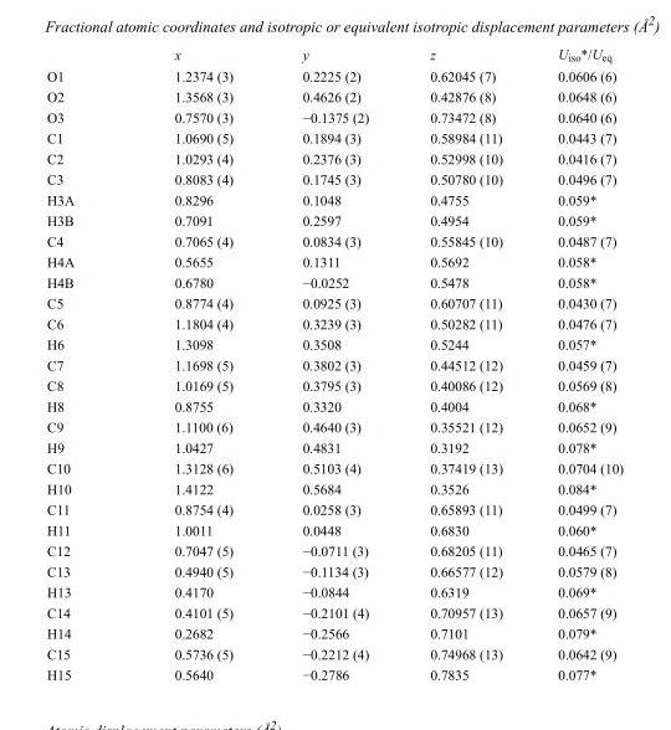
<table><thead><tr><td></td><td>x</td><td>y</td><td>z</td><td>U<sub>iso</sub>*/U<sub>eq</sub></td></tr></thead><tbody><tr><td>O1</td><td>1.2374 (3)</td><td>0.2225 (2)</td><td>0.62045 (7)</td><td>0.0606 (6)</td></tr><tr><td>O2</td><td>1.3568 (3)</td><td>0.4626 (2)</td><td>0.42876 (8)</td><td>0.0648 (6)</td></tr><tr><td>O3</td><td>0.7570 (3)</td><td>−0.1375 (2)</td><td>0.73472 (8)</td><td>0.0640 (6)</td></tr><tr><td>C1</td><td>1.0690 (5)</td><td>0.1894 (3)</td><td>0.58984 (11)</td><td>0.0443 (7)</td></tr><tr><td>C2</td><td>1.0293 (4)</td><td>0.2376 (3)</td><td>0.52998 (10)</td><td>0.0416 (7)</td></tr><tr><td>C3</td><td>0.8083 (4)</td><td>0.1745 (3)</td><td>0.50780 (10)</td><td>0.0496 (7)</td></tr><tr><td>H3A</td><td>0.8296</td><td>0.1048</td><td>0.4755</td><td>0.059*</td></tr><tr><td>H3B</td><td>0.7091</td><td>0.2597</td><td>0.4954</td><td>0.059*</td></tr><tr><td>C4</td><td>0.7065 (4)</td><td>0.0834 (3)</td><td>0.55845 (10)</td><td>0.0487 (7)</td></tr><tr><td>H4A</td><td>0.5655</td><td>0.1311</td><td>0.5692</td><td>0.058*</td></tr><tr><td>H4B</td><td>0.6780</td><td>−0.0252</td><td>0.5478</td><td>0.058*</td></tr><tr><td>C5</td><td>0.8774 (4)</td><td>0.0925 (3)</td><td>0.60707 (11)</td><td>0.0430 (7)</td></tr><tr><td>C6</td><td>1.1804 (4)</td><td>0.3239 (3)</td><td>0.50282 (11)</td><td>0.0476 (7)</td></tr><tr><td>H6</td><td>1.3098</td><td>0.3508</td><td>0.5244</td><td>0.057*</td></tr><tr><td>C7</td><td>1.1698 (5)</td><td>0.3802 (3)</td><td>0.44512 (12)</td><td>0.0459 (7)</td></tr><tr><td>C8</td><td>1.0169 (5)</td><td>0.3795 (3)</td><td>0.40086 (12)</td><td>0.0569 (8)</td></tr><tr><td>H8</td><td>0.8755</td><td>0.3320</td><td>0.4004</td><td>0.068*</td></tr><tr><td>C9</td><td>1.1100 (6)</td><td>0.4640 (3)</td><td>0.35521 (12)</td><td>0.0652 (9)</td></tr><tr><td>H9</td><td>1.0427</td><td>0.4831</td><td>0.3192</td><td>0.078*</td></tr><tr><td>C10</td><td>1.3128 (6)</td><td>0.5103 (4)</td><td>0.37419 (13)</td><td>0.0704 (10)</td></tr><tr><td>H10</td><td>1.4122</td><td>0.5684</td><td>0.3526</td><td>0.084*</td></tr><tr><td>C11</td><td>0.8754 (4)</td><td>0.0258 (3)</td><td>0.65893 (11)</td><td>0.0499 (7)</td></tr><tr><td>H11</td><td>1.0011</td><td>0.0448</td><td>0.6830</td><td>0.060*</td></tr><tr><td>C12</td><td>0.7047 (5)</td><td>−0.0711 (3)</td><td>0.68205 (11)</td><td>0.0465 (7)</td></tr><tr><td>C13</td><td>0.4940 (5)</td><td>−0.1134 (3)</td><td>0.66577 (12)</td><td>0.0579 (8)</td></tr><tr><td>H13</td><td>0.4170</td><td>−0.0844</td><td>0.6319</td><td>0.069*</td></tr><tr><td>C14</td><td>0.4101 (5)</td><td>−0.2101 (4)</td><td>0.70957 (13)</td><td>0.0657 (9)</td></tr><tr><td>H14</td><td>0.2682</td><td>−0.2566</td><td>0.7101</td><td>0.079*</td></tr><tr><td>C15</td><td>0.5736 (5)</td><td>−0.2212 (4)</td><td>0.74968 (13)</td><td>0.0642 (9)</td></tr><tr><td>H15</td><td>0.5640</td><td>−0.2786</td><td>0.7835</td><td>0.077*</td></tr></tbody></table>